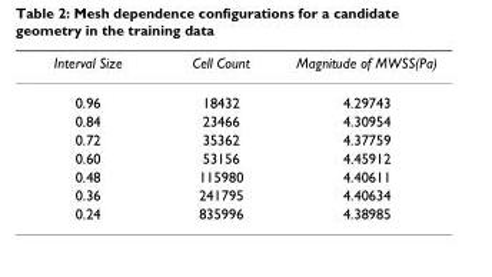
<table><thead><tr><td>Interval Size</td><td>Cell Count</td><td>Magnitude of MWSS(Pa)</td></tr></thead><tbody><tr><td>0.96</td><td>18432</td><td>4.29743</td></tr><tr><td>0.84</td><td>23466</td><td>4.30954</td></tr><tr><td>0.72</td><td>35362</td><td>4.37759</td></tr><tr><td>0.60</td><td>53156</td><td>4.45912</td></tr><tr><td>0.48</td><td>115980</td><td>4.40611</td></tr><tr><td>0.36</td><td>241795</td><td>4.40634</td></tr><tr><td>0.24</td><td>835996</td><td>4.38985</td></tr></tbody></table>